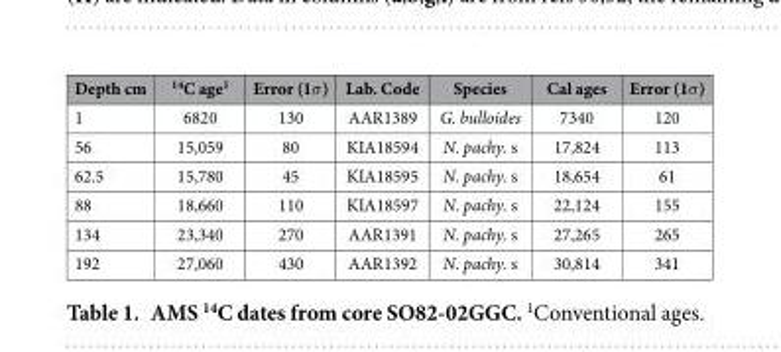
<table><thead><tr><td>Depth cm</td><td><sup>14</sup>C age<sup>1</sup></td><td>Error (1σ )</td><td>Lab. Code</td><td>Species</td><td>Cal ages</td><td>Error (1σ )</td></tr></thead><tbody><tr><td>1</td><td>6820</td><td>130</td><td>AAR1389</td><td>G. bulloides</td><td>7340</td><td>120</td></tr><tr><td>56</td><td>15,059</td><td>80</td><td>KIA18594</td><td>N. pachy. s</td><td>17,824</td><td>113</td></tr><tr><td>62.5</td><td>15,780</td><td>45</td><td>KIA18595</td><td>N. pachy. s</td><td>18,654</td><td>61</td></tr><tr><td>88</td><td>18,660</td><td>110</td><td>KIA18597</td><td>N. pachy. s</td><td>22,124</td><td>155</td></tr><tr><td>134</td><td>23,340</td><td>270</td><td>AAR1391</td><td>N. pachy. s</td><td>27,265</td><td>265</td></tr><tr><td>192</td><td>27,060</td><td>430</td><td>AAR1392</td><td>N. pachy. s</td><td>30,814</td><td>341</td></tr></tbody></table>